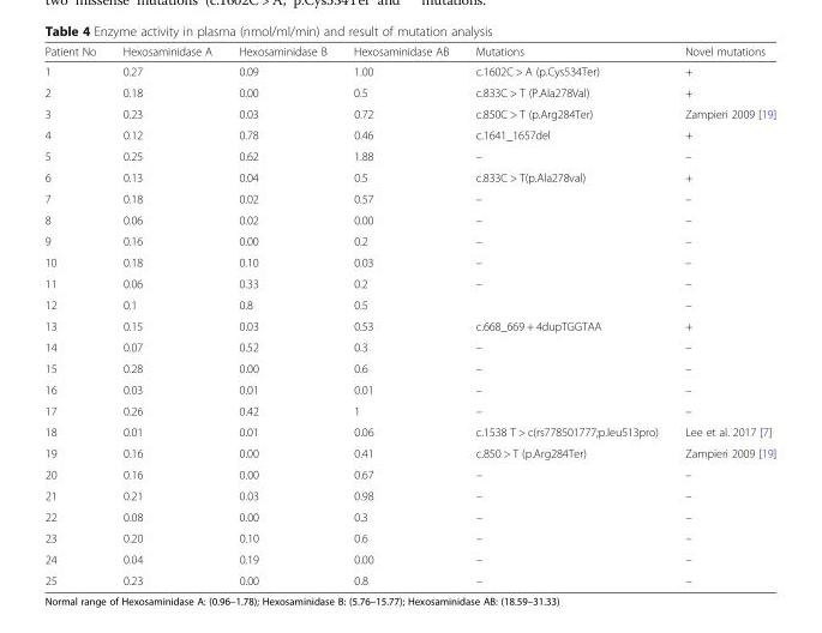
<table><thead><tr><td>Patient No</td><td>Hexosaminidase A</td><td>Hexosaminidase B</td><td>Hexosaminidase AB</td><td>Mutations</td><td>Novel mutations</td></tr></thead><tbody><tr><td>1</td><td>0.27</td><td>0.09</td><td>1.00</td><td>c.1602C &gt; A (p.Cys534Ter)</td><td>+</td></tr><tr><td>2</td><td>0.18</td><td>0.00</td><td>0.5</td><td>c.833C &gt; T (P.Ala278Val)</td><td>+</td></tr><tr><td>3</td><td>0.23</td><td>0.03</td><td>0.72</td><td>c.850C &gt; T (p.Arg284Ter)</td><td>Zampieri 2009 [19]</td></tr><tr><td>4</td><td>0.12</td><td>0.78</td><td>0.46</td><td>c.1641_1657del</td><td>+</td></tr><tr><td>5</td><td>0.25</td><td>0.62</td><td>1.88</td><td>–</td><td>–</td></tr><tr><td>6</td><td>0.13</td><td>0.04</td><td>0.5</td><td>c.833C &gt; T(p.Ala278val)</td><td>+</td></tr><tr><td>7</td><td>0.18</td><td>0.02</td><td>0.57</td><td>–</td><td>–</td></tr><tr><td>8</td><td>0.06</td><td>0.02</td><td>0.00</td><td>–</td><td>–</td></tr><tr><td>9</td><td>0.16</td><td>0.00</td><td>0.2</td><td>–</td><td>–</td></tr><tr><td>10</td><td>0.18</td><td>0.10</td><td>0.03</td><td>–</td><td>–</td></tr><tr><td>11</td><td>0.06</td><td>0.33</td><td>0.2</td><td>–</td><td>–</td></tr><tr><td>12</td><td>0.1</td><td>0.8</td><td>0.5</td><td></td><td>–</td></tr><tr><td>13</td><td>0.15</td><td>0.03</td><td>0.53</td><td>c.668_669 + 4dupTGGTAA</td><td>+</td></tr><tr><td>14</td><td>0.07</td><td>0.52</td><td>0.3</td><td>–</td><td>–</td></tr><tr><td>15</td><td>0.28</td><td>0.00</td><td>0.6</td><td>–</td><td>–</td></tr><tr><td>16</td><td>0.03</td><td>0.01</td><td>0.01</td><td>–</td><td>–</td></tr><tr><td>17</td><td>0.26</td><td>0.42</td><td>1</td><td>–</td><td>–</td></tr><tr><td>18</td><td>0.01</td><td>0.01</td><td>0.06</td><td>c.1538 T &gt; c(rs778501777;p.leu513pro)</td><td>Lee et al. 2017 [7]</td></tr><tr><td>19</td><td>0.16</td><td>0.00</td><td>0.41</td><td>c.850 &gt; T (p.Arg284Ter)</td><td>Zampieri 2009 [19]</td></tr><tr><td>20</td><td>0.16</td><td>0.00</td><td>0.67</td><td>–</td><td>–</td></tr><tr><td>21</td><td>0.21</td><td>0.03</td><td>0.98</td><td>–</td><td>–</td></tr><tr><td>22</td><td>0.08</td><td>0.00</td><td>0.3</td><td>–</td><td>–</td></tr><tr><td>23</td><td>0.20</td><td>0.10</td><td>0.6</td><td>–</td><td>–</td></tr><tr><td>24</td><td>0.04</td><td>0.19</td><td>0.00</td><td>–</td><td>–</td></tr><tr><td>25</td><td>0.23</td><td>0.00</td><td>0.8</td><td>–</td><td>–</td></tr></tbody></table>